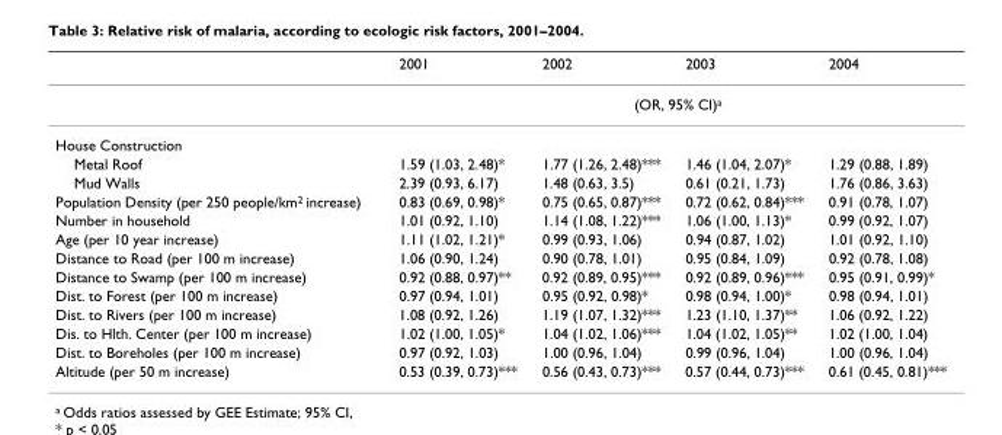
<table><thead><tr><td></td><td>2001</td><td>2002</td><td>2003</td><td>2004</td></tr></thead><tbody><tr><td></td><td colspan="4">(OR, 95% CI)<sup>a</sup></td></tr><tr><td colspan="5">House Construction</td></tr><tr><td>Metal Roof</td><td>1.59 (1.03, 2.48)*</td><td>1.77 (1.26, 2.48)***</td><td>1.46 (1.04, 2.07)*</td><td>1.29 (0.88, 1.89)</td></tr><tr><td>Mud Walls</td><td>2.39 (0.93, 6.17)</td><td>1.48 (0.63, 3.5)</td><td>0.61 (0.21, 1.73)</td><td>1.76 (0.86, 3.63)</td></tr><tr><td>Population Density (per 250 people/km<sup>2</sup> increase)</td><td>0.83 (0.69, 0.98)*</td><td>0.75 (0.65, 0.87)***</td><td>0.72 (0.62, 0.84)***</td><td>0.91 (0.78, 1.07)</td></tr><tr><td>Number in household</td><td>1.01 (0.92, 1.10)</td><td>1.14 (1.08, 1.22)***</td><td>1.06 (1.00, 1.13)*</td><td>0.99 (0.92, 1.07)</td></tr><tr><td>Age (per 10 year increase)</td><td>1.11 (1.02, 1.21)*</td><td>0.99 (0.93, 1.06)</td><td>0.94 (0.87, 1.02)</td><td>1.01 (0.92, 1.10)</td></tr><tr><td>Distance to Road (per 100 m increase)</td><td>1.06 (0.90, 1.24)</td><td>0.90 (0.78, 1.01)</td><td>0.95 (0.84, 1.09)</td><td>0.92 (0.78, 1.08)</td></tr><tr><td>Distance to Swamp (per 100 m increase)</td><td>0.92 (0.88, 0.97)**</td><td>0.92 (0.89, 0.95)***</td><td>0.92 (0.89, 0.96)***</td><td>0.95 (0.91, 0.99)*</td></tr><tr><td>Dist. to Forest (per 100 m increase)</td><td>0.97 (0.94, 1.01)</td><td>0.95 (0.92, 0.98)*</td><td>0.98 (0.94, 1.00)*</td><td>0.98 (0.94, 1.01)</td></tr><tr><td>Dist. to Rivers (per 100 m increase)</td><td>1.08 (0.92, 1.26)</td><td>1.19 (1.07, 1.32)***</td><td>1.23 (1.10, 1.37)**</td><td>1.06 (0.92, 1.22)</td></tr><tr><td>Dis. to Hlth. Center (per 100 m increase)</td><td>1.02 (1.00, 1.05)*</td><td>1.04 (1.02, 1.06)***</td><td>1.04 (1.02, 1.05)**</td><td>1.02 (1.00, 1.04)</td></tr><tr><td>Dist. to Boreholes (per 100 m increase)</td><td>0.97 (0.92, 1.03)</td><td>1.00 (0.96, 1.04)</td><td>0.99 (0.96, 1.04)</td><td>1.00 (0.96, 1.04)</td></tr><tr><td>Altitude (per 50 m increase)</td><td>0.53 (0.39, 0.73)***</td><td>0.56 (0.43, 0.73)***</td><td>0.57 (0.44, 0.73)***</td><td>0.61 (0.45, 0.81)***</td></tr></tbody></table>